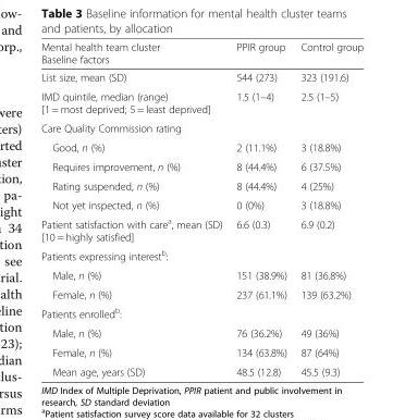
<table><thead><tr><td>Mental health team cluster Baseline factors</td><td>PPIR group</td><td>Control group</td></tr></thead><tbody><tr><td>List size, mean (SD)</td><td>544 (273)</td><td>323 (191.6)</td></tr><tr><td>IMD quintile, median (range) [1 = most deprived; 5 = least deprived]</td><td>1.5 (1–4)</td><td>2.5 (1–5)</td></tr><tr><td colspan="3">Care Quality Commission rating</td></tr><tr><td>Good, n (%)</td><td>2 (11.1%)</td><td>3 (18.8%)</td></tr><tr><td>Requires improvement, n (%)</td><td>8 (44.4%)</td><td>6 (37.5%)</td></tr><tr><td>Rating suspended, n (%)</td><td>8 (44.4%)</td><td>4 (25%)</td></tr><tr><td>Not yet inspected, n (%)</td><td>0 (0%)</td><td>3 (18.8%)</td></tr><tr><td>Patient satisfaction with care<sup>a</sup>, mean (SD) [10 = highly satisfied]</td><td>6.6 (0.3)</td><td>6.9 (0.2)</td></tr><tr><td colspan="3">Patients expressing interest<sup>b</sup>:</td></tr><tr><td>Male, n (%)</td><td>151 (38.9%)</td><td>81 (36.8%)</td></tr><tr><td>Female, n (%)</td><td>237 (61.1%)</td><td>139 (63.2%)</td></tr><tr><td colspan="3">Patients enrolled<sup>b</sup>:</td></tr><tr><td>Male, n (%)</td><td>76 (36.2%)</td><td>49 (36%)</td></tr><tr><td>Female, n (%)</td><td>134 (63.8%)</td><td>87 (64%)</td></tr><tr><td>Mean age, years (SD)</td><td>48.5 (12.8)</td><td>45.5 (9.3)</td></tr></tbody></table>